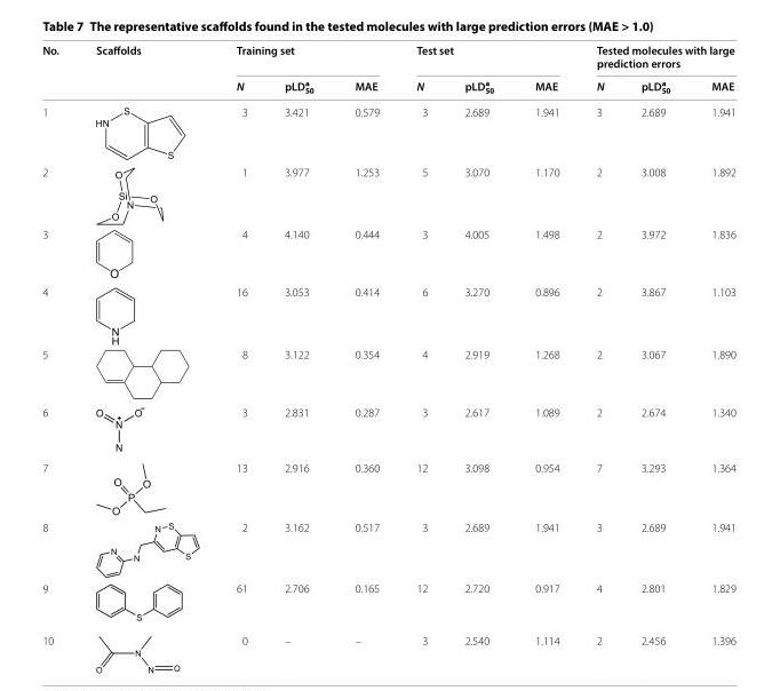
<table><thead><tr><td rowspan="2">No.</td><td rowspan="2">Scaffolds</td><td colspan="3">Training set</td><td colspan="3">Test set</td><td colspan="3">Tested molecules with large prediction errors</td></tr><tr><td>N</td><td>pLDa 50</td><td>MAE</td><td>N</td><td>pLDa 50</td><td>MAE</td><td>N</td><td>pLDa 50</td><td>MAE</td></tr></thead><tbody><tr><td>1</td><td></td><td>3</td><td>3.421</td><td>0.579</td><td>3</td><td>2.689</td><td>1.941</td><td>3</td><td>2.689</td><td>1.941</td></tr><tr><td>2</td><td></td><td>1</td><td>3.977</td><td>1.253</td><td>5</td><td>3.070</td><td>1.170</td><td>2</td><td>3.008</td><td>1.892</td></tr><tr><td>3</td><td></td><td>4</td><td>4.140</td><td>0.444</td><td>3</td><td>4.005</td><td>1.498</td><td>2</td><td>3.972</td><td>1.836</td></tr><tr><td>4</td><td></td><td>16</td><td>3.053</td><td>0.414</td><td>6</td><td>3.270</td><td>0.896</td><td>2</td><td>3.867</td><td>1.103</td></tr><tr><td>5</td><td></td><td>8</td><td>3.122</td><td>0.354</td><td>4</td><td>2.919</td><td>1.268</td><td>2</td><td>3.067</td><td>1.890</td></tr><tr><td>6</td><td></td><td>3</td><td>2.831</td><td>0.287</td><td>3</td><td>2.617</td><td>1.089</td><td>2</td><td>2.674</td><td>1.340</td></tr><tr><td>7</td><td></td><td>13</td><td>2.916</td><td>0.360</td><td>12</td><td>3.098</td><td>0.954</td><td>7</td><td>3.293</td><td>1.364</td></tr><tr><td>8</td><td></td><td>2</td><td>3.162</td><td>0.517</td><td>3</td><td>2.689</td><td>1.941</td><td>3</td><td>2.689</td><td>1.941</td></tr><tr><td>9</td><td></td><td>61</td><td>2.706</td><td>0.165</td><td>12</td><td>2.720</td><td>0.917</td><td>4</td><td>2.801</td><td>1.829</td></tr><tr><td>10</td><td></td><td>0</td><td>–</td><td>–</td><td>3</td><td>2.540</td><td>1.114</td><td>2</td><td>2.456</td><td>1.396</td></tr></tbody></table>